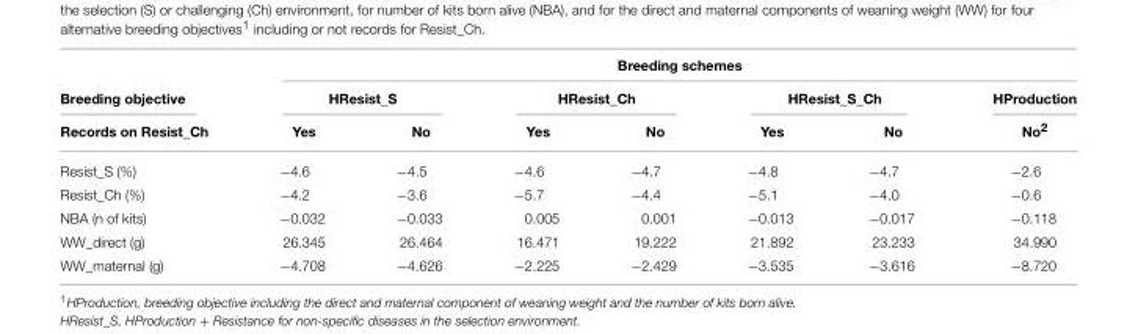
<table><thead><tr><td rowspan="3">Breeding objective Records on Resist_Ch</td><td colspan="7">Breeding schemes</td></tr><tr><td colspan="2">HResist_S</td><td colspan="2">HResist_Ch</td><td colspan="2">HResist_S_Ch</td><td rowspan="2">HProduction No<sup>2</sup></td></tr><tr><td>Yes</td><td>No</td><td>Yes</td><td>No</td><td>Yes</td><td>No</td></tr></thead><tbody><tr><td>Resist_S (%)</td><td>−4.6</td><td>−4.5</td><td>−4.6</td><td>−4.7</td><td>−4.8</td><td>−4.7</td><td>−2.6</td></tr><tr><td>Resist_Ch (%)</td><td>−4.2</td><td>−3.6</td><td>−5.7</td><td>−4.4</td><td>−5.1</td><td>−4.0</td><td>−0.6</td></tr><tr><td>NBA (n of kits)</td><td>−0.032</td><td>−0.033</td><td>0.005</td><td>0.001</td><td>−0.013</td><td>−0.017</td><td>−0.118</td></tr><tr><td>WW_direct (g)</td><td>26.345</td><td>26.464</td><td>16.471</td><td>19.222</td><td>21.892</td><td>23.233</td><td>34.990</td></tr><tr><td>WW_maternal (g)</td><td>−4.708</td><td>−4.626</td><td>−2.225</td><td>−2.429</td><td>−3.535</td><td>−3.616</td><td>−8.720</td></tr></tbody></table>